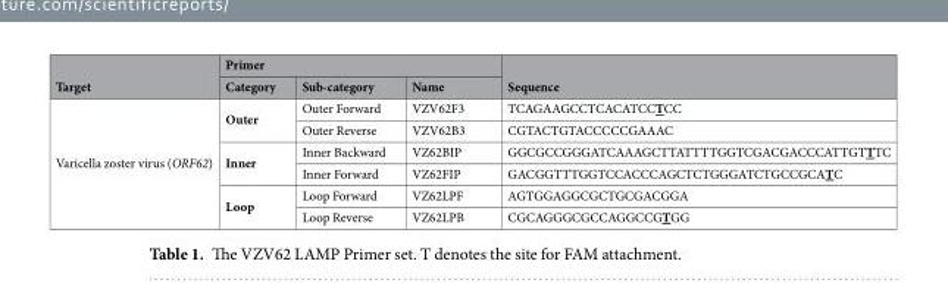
<table><thead><tr><td rowspan="2">Target</td><td colspan="3">Primer</td><td rowspan="2">Sequence</td></tr><tr><td>Category</td><td>Sub-category</td><td>Name</td></tr></thead><tbody><tr><td rowspan="6">Varicella zoster virus (ORF62)</td><td rowspan="2">Outer</td><td>Outer Forward</td><td>VZV62F3</td><td>TCAGAAGCCTCACATCCTCC</td></tr><tr><td>Outer Reverse</td><td>VZV62B3</td><td>CGTACTGTACCCCCGAAAC</td></tr><tr><td rowspan="2">Inner</td><td>Inner Backward</td><td>VZ62BIP</td><td>GGCGCCGGGATCAAAGCTTATTTTGGTCGACGACCCATTGTTTC</td></tr><tr><td>Inner Forward</td><td>VZ62FIP</td><td>GACGGTTTGGTCCACCCAGCTCTGGGATCTGCCGCATC</td></tr><tr><td rowspan="2">Loop</td><td>Loop Forward</td><td>VZ62LPF</td><td>AGTGGAGGCGCTGCGACGGA</td></tr><tr><td>Loop Reverse</td><td>VZ62LPB</td><td>CGCAGGGCGCCAGGCCGTGG</td></tr></tbody></table>